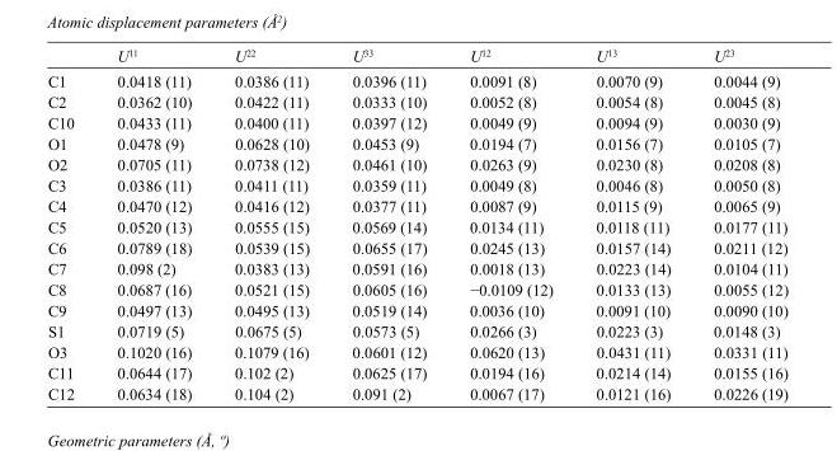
<table><thead><tr><td></td><td>U<sup>11</sup></td><td>U<sup>22</sup></td><td>U<sup>33</sup></td><td>U<sup>12</sup></td><td>U<sup>13</sup></td><td>U<sup>23</sup></td></tr></thead><tbody><tr><td>C1</td><td>0.0418 (11)</td><td>0.0386 (11)</td><td>0.0396 (11)</td><td>0.0091 (8)</td><td>0.0070 (9)</td><td>0.0044 (9)</td></tr><tr><td>C2</td><td>0.0362 (10)</td><td>0.0422 (11)</td><td>0.0333 (10)</td><td>0.0052 (8)</td><td>0.0054 (8)</td><td>0.0045 (8)</td></tr><tr><td>C10</td><td>0.0433 (11)</td><td>0.0400 (11)</td><td>0.0397 (12)</td><td>0.0049 (9)</td><td>0.0094 (9)</td><td>0.0030 (9)</td></tr><tr><td>O1</td><td>0.0478 (9)</td><td>0.0628 (10)</td><td>0.0453 (9)</td><td>0.0194 (7)</td><td>0.0156 (7)</td><td>0.0105 (7)</td></tr><tr><td>O2</td><td>0.0705 (11)</td><td>0.0738 (12)</td><td>0.0461 (10)</td><td>0.0263 (9)</td><td>0.0230 (8)</td><td>0.0208 (8)</td></tr><tr><td>C3</td><td>0.0386 (11)</td><td>0.0411 (11)</td><td>0.0359 (11)</td><td>0.0049 (8)</td><td>0.0046 (8)</td><td>0.0050 (8)</td></tr><tr><td>C4</td><td>0.0470 (12)</td><td>0.0416 (12)</td><td>0.0377 (11)</td><td>0.0087 (9)</td><td>0.0115 (9)</td><td>0.0065 (9)</td></tr><tr><td>C5</td><td>0.0520 (13)</td><td>0.0555 (15)</td><td>0.0569 (14)</td><td>0.0134 (11)</td><td>0.0118 (11)</td><td>0.0177 (11)</td></tr><tr><td>C6</td><td>0.0789 (18)</td><td>0.0539 (15)</td><td>0.0655 (17)</td><td>0.0245 (13)</td><td>0.0157 (14)</td><td>0.0211 (12)</td></tr><tr><td>C7</td><td>0.098 (2)</td><td>0.0383 (13)</td><td>0.0591 (16)</td><td>0.0018 (13)</td><td>0.0223 (14)</td><td>0.0104 (11)</td></tr><tr><td>C8</td><td>0.0687 (16)</td><td>0.0521 (15)</td><td>0.0605 (16)</td><td>−0.0109 (12)</td><td>0.0133 (13)</td><td>0.0055 (12)</td></tr><tr><td>C9</td><td>0.0497 (13)</td><td>0.0495 (13)</td><td>0.0519 (14)</td><td>0.0036 (10)</td><td>0.0091 (10)</td><td>0.0090 (10)</td></tr><tr><td>S1</td><td>0.0719 (5)</td><td>0.0675 (5)</td><td>0.0573 (5)</td><td>0.0266 (3)</td><td>0.0223 (3)</td><td>0.0148 (3)</td></tr><tr><td>O3</td><td>0.1020 (16)</td><td>0.1079 (16)</td><td>0.0601 (12)</td><td>0.0620 (13)</td><td>0.0431 (11)</td><td>0.0331 (11)</td></tr><tr><td>C11</td><td>0.0644 (17)</td><td>0.102 (2)</td><td>0.0625 (17)</td><td>0.0194 (16)</td><td>0.0214 (14)</td><td>0.0155 (16)</td></tr><tr><td>C12</td><td>0.0634 (18)</td><td>0.104 (2)</td><td>0.091 (2)</td><td>0.0067 (17)</td><td>0.0121 (16)</td><td>0.0226 (19)</td></tr></tbody></table>